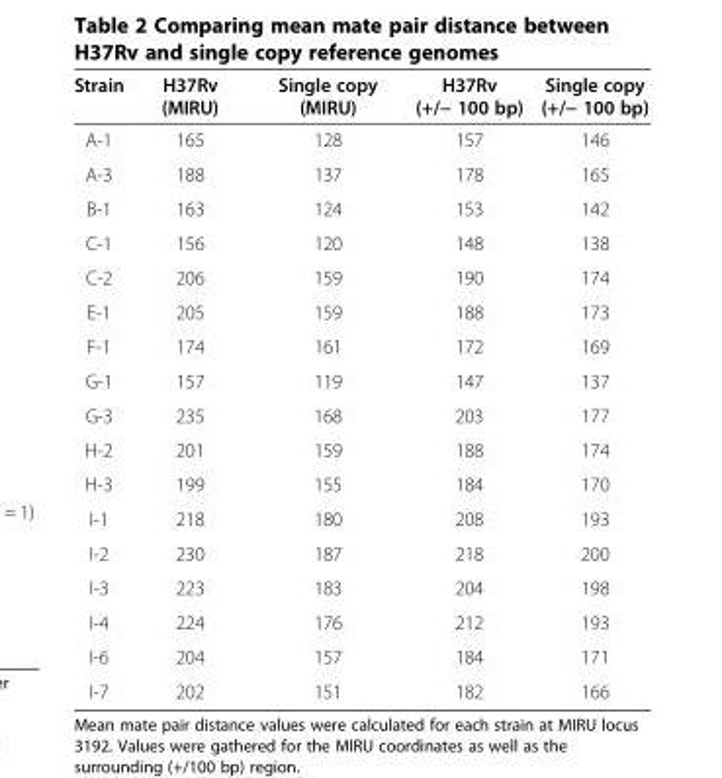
<table><thead><tr><td>Strain</td><td>H37Rv (MIRU)</td><td>Single copy (MIRU)</td><td>H37Rv (+/− 100 bp)</td><td>Single copy (+/− 100 bp)</td></tr></thead><tbody><tr><td>A-1</td><td>165</td><td>128</td><td>157</td><td>146</td></tr><tr><td>A-3</td><td>188</td><td>137</td><td>178</td><td>165</td></tr><tr><td>B-1</td><td>163</td><td>124</td><td>153</td><td>142</td></tr><tr><td>C-1</td><td>156</td><td>120</td><td>148</td><td>138</td></tr><tr><td>C-2</td><td>206</td><td>159</td><td>190</td><td>174</td></tr><tr><td>E-1</td><td>205</td><td>159</td><td>188</td><td>173</td></tr><tr><td>F-1</td><td>174</td><td>161</td><td>172</td><td>169</td></tr><tr><td>G-1</td><td>157</td><td>119</td><td>147</td><td>137</td></tr><tr><td>G-3</td><td>235</td><td>168</td><td>203</td><td>177</td></tr><tr><td>H-2</td><td>201</td><td>159</td><td>188</td><td>174</td></tr><tr><td>H-3</td><td>199</td><td>155</td><td>184</td><td>170</td></tr><tr><td>I-1</td><td>218</td><td>180</td><td>208</td><td>193</td></tr><tr><td>I-2</td><td>230</td><td>187</td><td>218</td><td>200</td></tr><tr><td>I-3</td><td>223</td><td>183</td><td>204</td><td>198</td></tr><tr><td>I-4</td><td>224</td><td>176</td><td>212</td><td>193</td></tr><tr><td>I-6</td><td>204</td><td>157</td><td>184</td><td>171</td></tr><tr><td>I-7</td><td>202</td><td>151</td><td>182</td><td>166</td></tr></tbody></table>